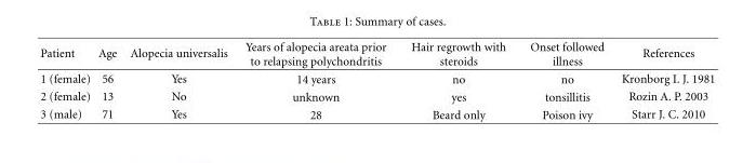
<table><thead><tr><td>Patient</td><td>Age</td><td>Alopecia universalis</td><td>Years of alopecia areata prior to relapsing polychondritis</td><td>Hair regrowth with steroids</td><td>Onset followed illness</td><td>References</td></tr></thead><tbody><tr><td>1 (female)</td><td>56</td><td>Yes</td><td>14 years</td><td>no</td><td>no</td><td>Kronborg I. J. 1981</td></tr><tr><td>2 (female)</td><td>13</td><td>No</td><td>unknown</td><td>yes</td><td>tonsillitis</td><td>Rozin A. P. 2003</td></tr><tr><td>3 (male)</td><td>71</td><td>Yes</td><td>28</td><td>Beard only</td><td>Poison ivy</td><td>Starr J. C. 2010</td></tr></tbody></table>